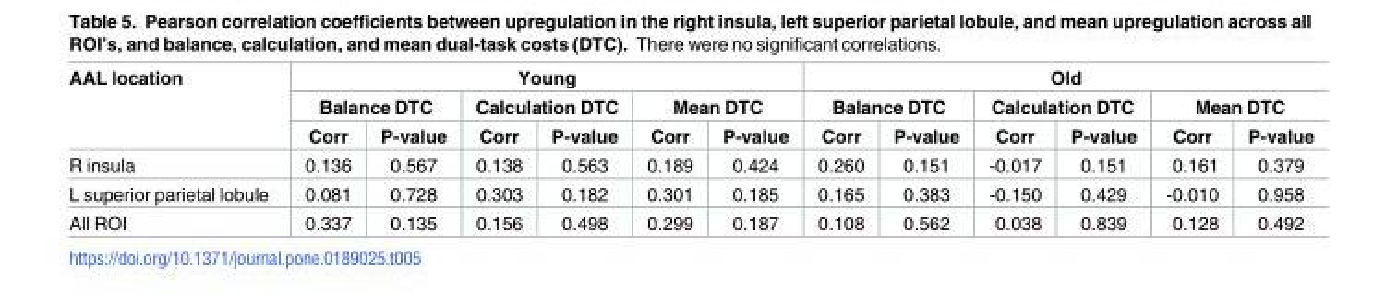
<table><thead><tr><td rowspan="3">AAL location</td><td colspan="6">Young</td><td colspan="6">Old</td></tr><tr><td colspan="2">Balance DTC</td><td colspan="2">Calculation DTC</td><td colspan="2">Mean DTC</td><td colspan="2">Balance DTC</td><td colspan="2">Calculation DTC</td><td colspan="2">Mean DTC</td></tr><tr><td>Corr</td><td>P-value</td><td>Corr</td><td>P-value</td><td>Corr</td><td>P-value</td><td>Corr</td><td>P-value</td><td>Corr</td><td>P-value</td><td>Corr</td><td>P-value</td></tr></thead><tbody><tr><td>R insula</td><td>0.136</td><td>0.567</td><td>0.138</td><td>0.563</td><td>0.189</td><td>0.424</td><td>0.260</td><td>0.151</td><td>-0.017</td><td>0.151</td><td>0.161</td><td>0.379</td></tr><tr><td>L superior parietal lobule</td><td>0.081</td><td>0.728</td><td>0.303</td><td>0.182</td><td>0.301</td><td>0.185</td><td>0.165</td><td>0.383</td><td>-0.150</td><td>0.429</td><td>-0.010</td><td>0.958</td></tr><tr><td>All ROI</td><td>0.337</td><td>0.135</td><td>0.156</td><td>0.498</td><td>0.299</td><td>0.187</td><td>0.108</td><td>0.562</td><td>0.038</td><td>0.839</td><td>0.128</td><td>0.492</td></tr></tbody></table>